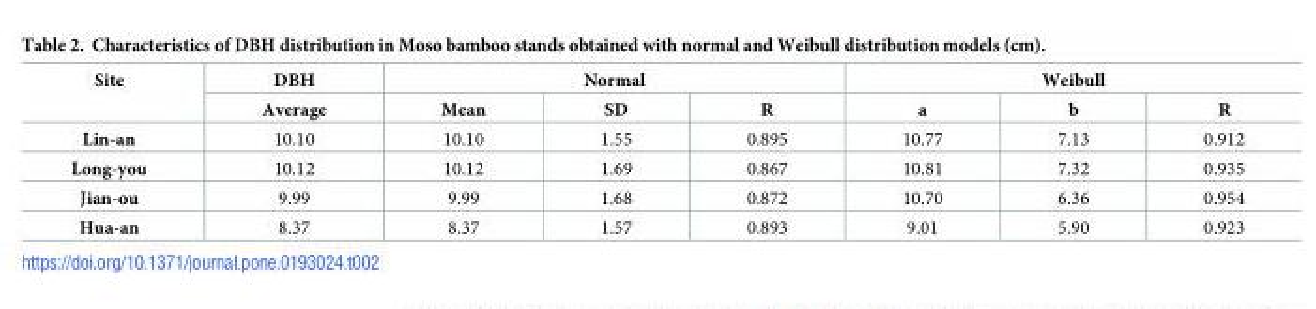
<table><thead><tr><td rowspan="2">Site</td><td rowspan="2">DBH Average</td><td colspan="3">Normal</td><td colspan="3">Weibull</td></tr><tr><td>Mean</td><td>SD</td><td>R</td><td>a</td><td>b</td><td>R</td></tr></thead><tbody><tr><td>Lin-an</td><td>10.10</td><td>10.10</td><td>1.55</td><td>0.895</td><td>10.77</td><td>7.13</td><td>0.912</td></tr><tr><td>Long-you</td><td>10.12</td><td>10.12</td><td>1.69</td><td>0.867</td><td>10.81</td><td>7.32</td><td>0.935</td></tr><tr><td>Jian-ou</td><td>9.99</td><td>9.99</td><td>1.68</td><td>0.872</td><td>10.70</td><td>6.36</td><td>0.954</td></tr><tr><td>Hua-an</td><td>8.37</td><td>8.37</td><td>1.57</td><td>0.893</td><td>9.01</td><td>5.90</td><td>0.923</td></tr></tbody></table>